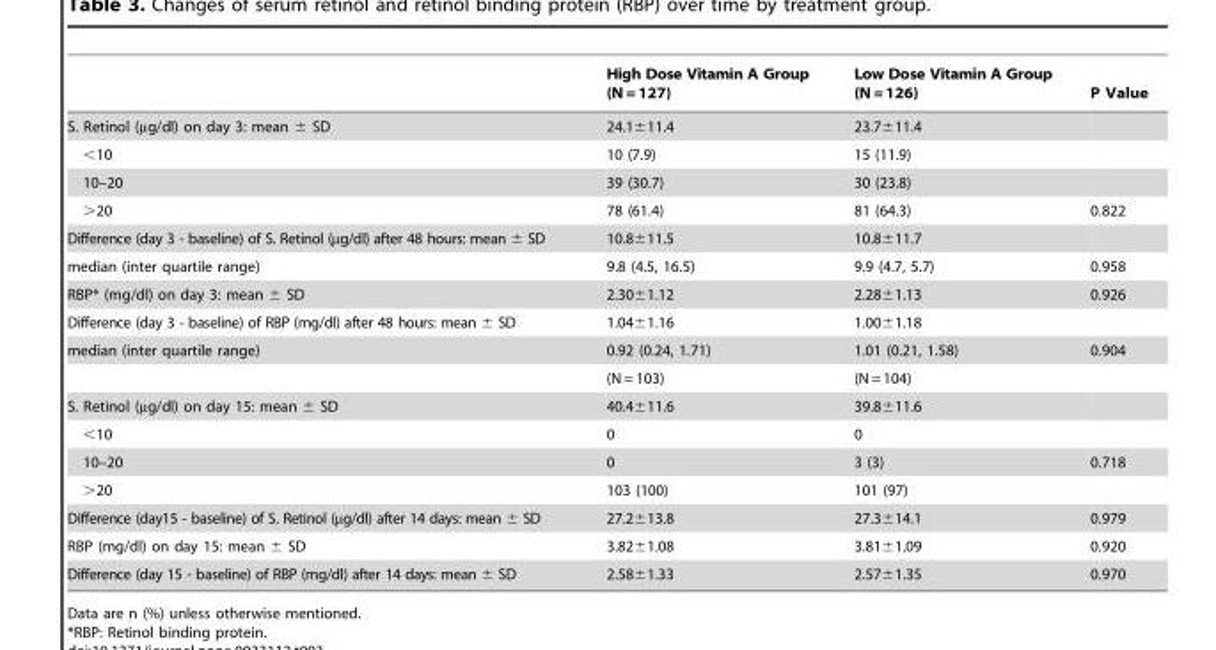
<table><thead><tr><td></td><td>High Dose Vitamin A Group (N = 127)</td><td>Low Dose Vitamin A Group (N = 126)</td><td>P Value</td></tr></thead><tbody><tr><td>S. Retinol (µg/dl) on day 3: mean ± SD</td><td>24.1±11.4</td><td>23.7±11.4</td><td></td></tr><tr><td>&lt;10</td><td>10 (7.9)</td><td>15 (11.9)</td><td></td></tr><tr><td>10–20</td><td>39 (30.7)</td><td>30 (23.8)</td><td></td></tr><tr><td>&gt;20</td><td>78 (61.4)</td><td>81 (64.3)</td><td>0.822</td></tr><tr><td>Difference (day 3 - baseline) of S. Retinol (µg/dl) after 48 hours: mean ± SD</td><td>10.8±11.5</td><td>10.8±11.7</td><td></td></tr><tr><td>median (inter quartile range)</td><td>9.8 (4.5, 16.5)</td><td>9.9 (4.7, 5.7)</td><td>0.958</td></tr><tr><td>RBP* (mg/dl) on day 3: mean ± SD</td><td>2.30±1.12</td><td>2.28±1.13</td><td>0.926</td></tr><tr><td>Difference (day 3 - baseline) of RBP (mg/dl) after 48 hours: mean ± SD</td><td>1.04±1.16</td><td>1.00±1.18</td><td></td></tr><tr><td rowspan="2">median (inter quartile range)</td><td>0.92 (0.24, 1.71)</td><td>1.01 (0.21, 1.58)</td><td>0.904</td></tr><tr><td>(N = 103)</td><td>(N = 104)</td><td></td></tr><tr><td>S. Retinol (µg/dl) on day 15: mean ± SD</td><td>40.4±11.6</td><td>39.8±11.6</td><td></td></tr><tr><td>&lt;10</td><td>0</td><td>0</td><td></td></tr><tr><td>10–20</td><td>0</td><td>3 (3)</td><td>0.718</td></tr><tr><td>&gt;20</td><td>103 (100)</td><td>101 (97)</td><td></td></tr><tr><td>Difference (day15 - baseline) of S. Retinol (µg/dl) after 14 days: mean ± SD</td><td>27.2±13.8</td><td>27.3±14.1</td><td>0.979</td></tr><tr><td>RBP (mg/dl) on day 15: mean ± SD</td><td>3.82±1.08</td><td>3.81±1.09</td><td>0.920</td></tr><tr><td>Difference (day 15 - baseline) of RBP (mg/dl) after 14 days: mean ± SD</td><td>2.58±1.33</td><td>2.57±1.35</td><td>0.970</td></tr></tbody></table>